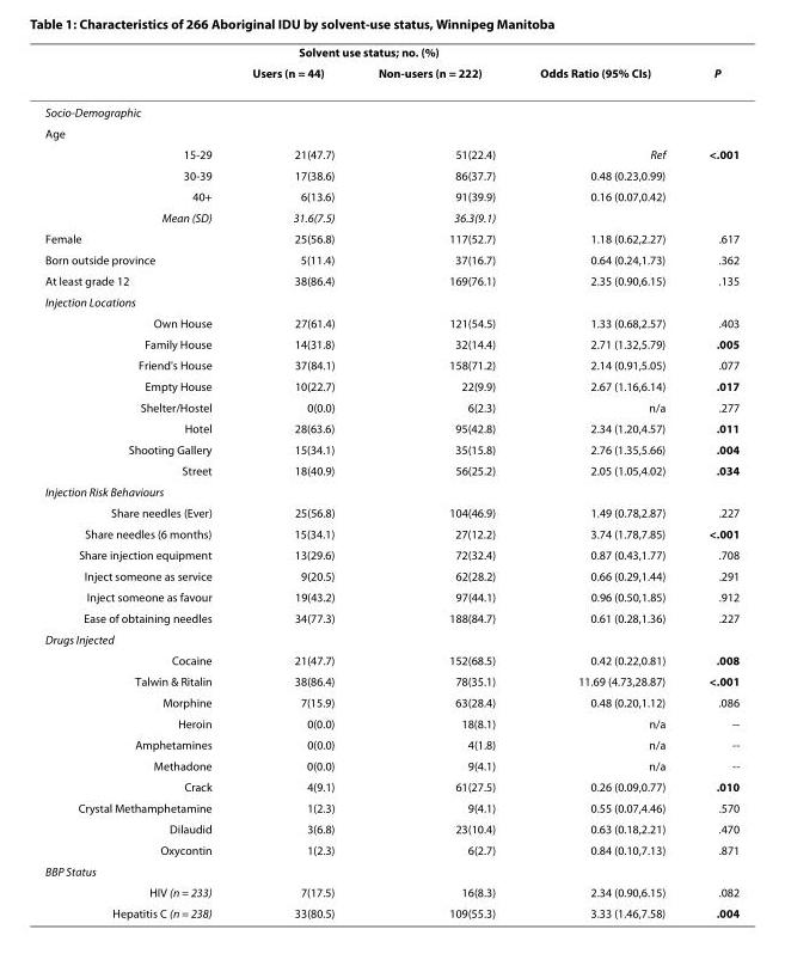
<table><thead><tr><td rowspan="2"></td><td colspan="2">Solvent use status; no. (%)</td><td rowspan="2">Odds Ratio (95% CIs)</td><td rowspan="2">P</td></tr><tr><td>Users (n = 44)</td><td>Non-users (n = 222)</td></tr></thead><tbody><tr><td colspan="5">Socio-Demographic</td></tr><tr><td colspan="5">Age</td></tr><tr><td>15-29</td><td>21(47.7)</td><td>51(22.4)</td><td>Ref</td><td>&lt;.001</td></tr><tr><td>30-39</td><td>17(38.6)</td><td>86(37.7)</td><td>0.48 (0.23,0.99)</td><td></td></tr><tr><td>40+</td><td>6(13.6)</td><td>91(39.9)</td><td>0.16 (0.07,0.42)</td><td></td></tr><tr><td>Mean (SD)</td><td>31.6(7.5)</td><td>36.3(9.1)</td><td></td><td></td></tr><tr><td>Female</td><td>25(56.8)</td><td>117(52.7)</td><td>1.18 (0.62,2.27)</td><td>.617</td></tr><tr><td>Born outside province</td><td>5(11.4)</td><td>37(16.7)</td><td>0.64 (0.24,1.73)</td><td>.362</td></tr><tr><td>At least grade 12</td><td>38(86.4)</td><td>169(76.1)</td><td>2.35 (0.90,6.15)</td><td>.135</td></tr><tr><td colspan="5">Injection Locations</td></tr><tr><td>Own House</td><td>27(61.4)</td><td>121(54.5)</td><td>1.33 (0.68,2.57)</td><td>.403</td></tr><tr><td>Family House</td><td>14(31.8)</td><td>32(14.4)</td><td>2.71 (1.32,5.79)</td><td>.005</td></tr><tr><td>Friend&#x27;s House</td><td>37(84.1)</td><td>158(71.2)</td><td>2.14 (0.91,5.05)</td><td>.077</td></tr><tr><td>Empty House</td><td>10(22.7)</td><td>22(9.9)</td><td>2.67 (1.16,6.14)</td><td>.017</td></tr><tr><td>Shelter/Hostel</td><td>0(0.0)</td><td>6(2.3)</td><td>n/a</td><td>.277</td></tr><tr><td>Hotel</td><td>28(63.6)</td><td>95(42.8)</td><td>2.34 (1.20,4.57)</td><td>.011</td></tr><tr><td>Shooting Gallery</td><td>15(34.1)</td><td>35(15.8)</td><td>2.76 (1.35,5.66)</td><td>.004</td></tr><tr><td>Street</td><td>18(40.9)</td><td>56(25.2)</td><td>2.05 (1.05,4.02)</td><td>.034</td></tr><tr><td colspan="5">Injection Risk Behaviours</td></tr><tr><td>Share needles (Ever)</td><td>25(56.8)</td><td>104(46.9)</td><td>1.49 (0.78,2.87)</td><td>.227</td></tr><tr><td>Share needles (6 months)</td><td>15(34.1)</td><td>27(12.2)</td><td>3.74 (1.78,7.85)</td><td>&lt;.001</td></tr><tr><td>Share injection equipment</td><td>13(29.6)</td><td>72(32.4)</td><td>0.87 (0.43,1.77)</td><td>.708</td></tr><tr><td>Inject someone as service</td><td>9(20.5)</td><td>62(28.2)</td><td>0.66 (0.29,1.44)</td><td>.291</td></tr><tr><td>Inject someone as favour</td><td>19(43.2)</td><td>97(44.1)</td><td>0.96 (0.50,1.85)</td><td>.912</td></tr><tr><td>Ease of obtaining needles</td><td>34(77.3)</td><td>188(84.7)</td><td>0.61 (0.28,1.36)</td><td>.227</td></tr><tr><td colspan="5">Drugs Injected</td></tr><tr><td>Cocaine</td><td>21(47.7)</td><td>152(68.5)</td><td>0.42 (0.22,0.81)</td><td>.008</td></tr><tr><td>Talwin &amp; Ritalin</td><td>38(86.4)</td><td>78(35.1)</td><td>11.69 (4.73,28.87)</td><td>&lt;.001</td></tr><tr><td>Morphine</td><td>7(15.9)</td><td>63(28.4)</td><td>0.48 (0.20,1.12)</td><td>.086</td></tr><tr><td>Heroin</td><td>0(0.0)</td><td>18(8.1)</td><td>n/a</td><td>--</td></tr><tr><td>Amphetamines</td><td>0(0.0)</td><td>4(1.8)</td><td>n/a</td><td>--</td></tr><tr><td>Methadone</td><td>0(0.0)</td><td>9(4.1)</td><td>n/a</td><td>--</td></tr><tr><td>Crack</td><td>4(9.1)</td><td>61(27.5)</td><td>0.26 (0.09,0.77)</td><td>.010</td></tr><tr><td>Crystal Methamphetamine</td><td>1(2.3)</td><td>9(4.1)</td><td>0.55 (0.07,4.46)</td><td>.570</td></tr><tr><td>Dilaudid</td><td>3(6.8)</td><td>23(10.4)</td><td>0.63 (0.18,2.21)</td><td>.470</td></tr><tr><td>Oxycontin</td><td>1(2.3)</td><td>6(2.7)</td><td>0.84 (0.10,7.13)</td><td>.871</td></tr><tr><td colspan="5">BBP Status</td></tr><tr><td>HIV (n = 233)</td><td>7(17.5)</td><td>16(8.3)</td><td>2.34 (0.90,6.15)</td><td>.082</td></tr><tr><td>Hepatitis C (n = 238)</td><td>33(80.5)</td><td>109(55.3)</td><td>3.33 (1.46,7.58)</td><td>.004</td></tr></tbody></table>